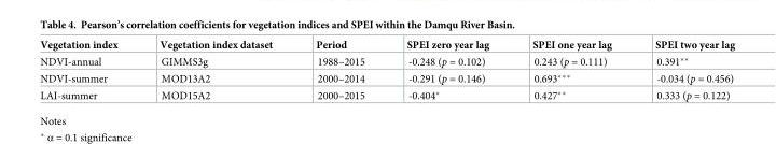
<table><thead><tr><td>Vegetation index</td><td>Vegetation index dataset</td><td>Period</td><td>SPEI zero year lag</td><td>SPEI one year lag</td><td>SPEI two year lag</td></tr></thead><tbody><tr><td>NDVI-annual</td><td>GIMMS3g</td><td>1988–2015</td><td>-0.248 (p = 0.102)</td><td>0.243 (p = 0.111)</td><td>0.391**</td></tr><tr><td>NDVI-summer</td><td>MOD13A2</td><td>2000–2014</td><td>-0.291 (p = 0.146)</td><td>0.693***</td><td>-0.034 (p = 0.456)</td></tr><tr><td>LAI-summer</td><td>MOD15A2</td><td>2000–2015</td><td>-0.404*</td><td>0.427**</td><td>0.333 (p = 0.122)</td></tr></tbody></table>